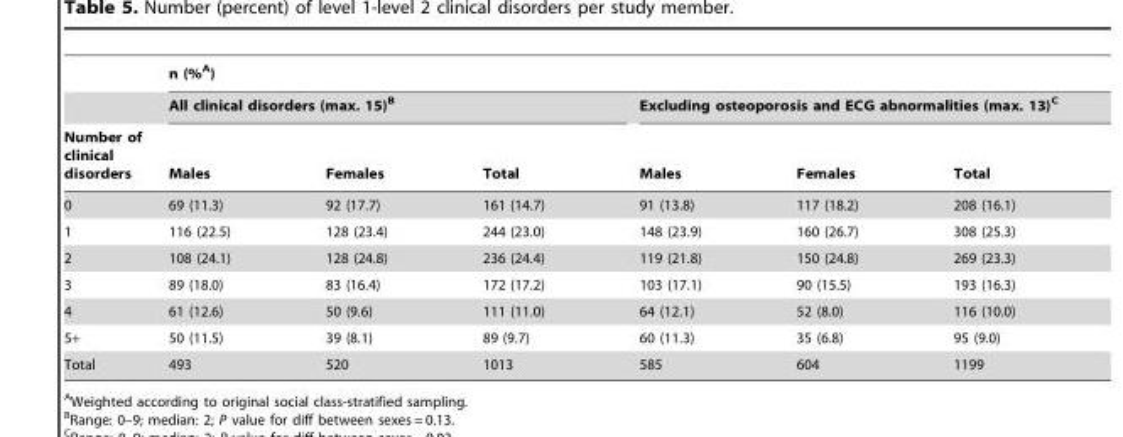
<table><thead><tr><td rowspan="3">Number of clinical disorders</td><td colspan="6">n (%<sup>A</sup>)</td></tr><tr><td colspan="3">All clinical disorders (max. 15)<sup>B</sup></td><td colspan="3">Excluding osteoporosis and ECG abnormalities (max. 13)<sup>C</sup></td></tr><tr><td>Males</td><td>Females</td><td>Total</td><td>Males</td><td>Females</td><td>Total</td></tr></thead><tbody><tr><td>0</td><td>69 (11.3)</td><td>92 (17.7)</td><td>161 (14.7)</td><td>91 (13.8)</td><td>117 (18.2)</td><td>208 (16.1)</td></tr><tr><td>1</td><td>116 (22.5)</td><td>128 (23.4)</td><td>244 (23.0)</td><td>148 (23.9)</td><td>160 (26.7)</td><td>308 (25.3)</td></tr><tr><td>2</td><td>108 (24.1)</td><td>128 (24.8)</td><td>236 (24.4)</td><td>119 (21.8)</td><td>150 (24.8)</td><td>269 (23.3)</td></tr><tr><td>3</td><td>89 (18.0)</td><td>83 (16.4)</td><td>172 (17.2)</td><td>103 (17.1)</td><td>90 (15.5)</td><td>193 (16.3)</td></tr><tr><td>4</td><td>61 (12.6)</td><td>50 (9.6)</td><td>111 (11.0)</td><td>64 (12.1)</td><td>52 (8.0)</td><td>116 (10.0)</td></tr><tr><td>5+</td><td>50 (11.5)</td><td>39 (8.1)</td><td>89 (9.7)</td><td>60 (11.3)</td><td>35 (6.8)</td><td>95 (9.0)</td></tr><tr><td>Total</td><td>493</td><td>520</td><td>1013</td><td>585</td><td>604</td><td>1199</td></tr></tbody></table>